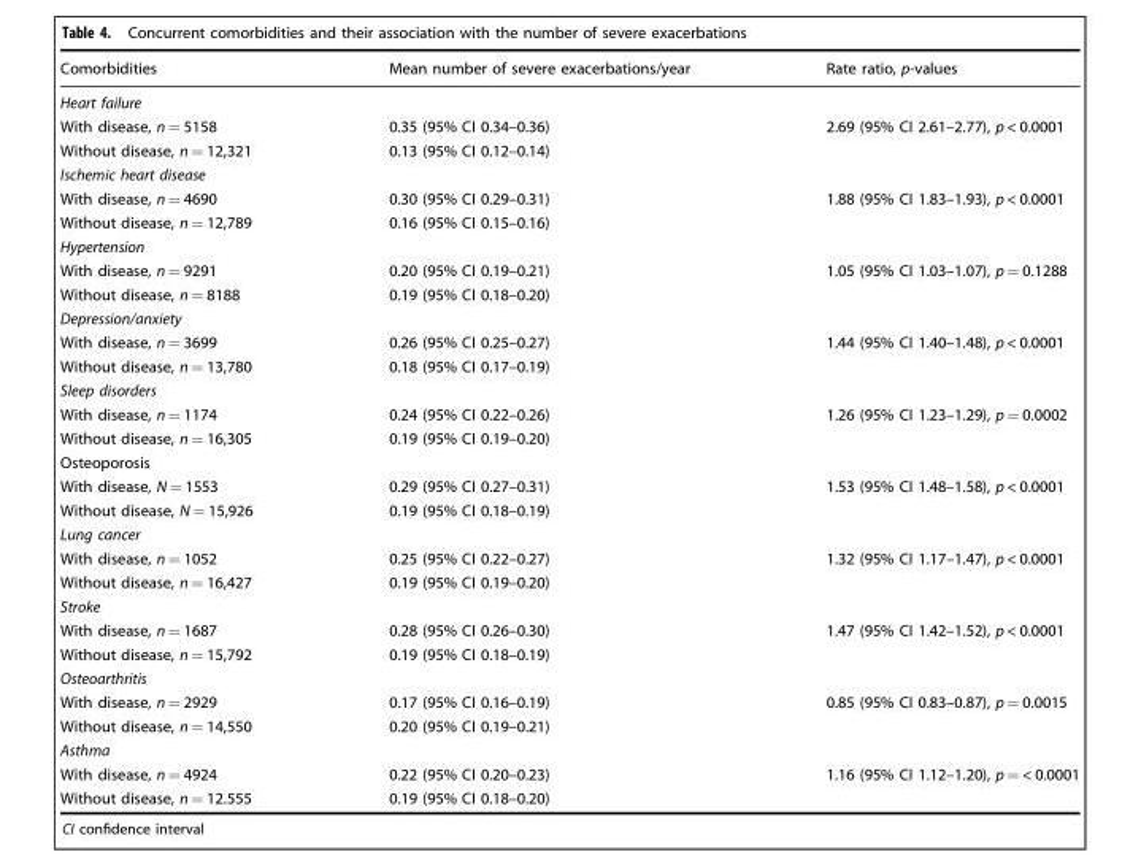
<table><thead><tr><td>Comorbidities</td><td>Mean number of severe exacerbations/year</td><td>Rate ratio, p-values</td></tr></thead><tbody><tr><td colspan="3">Heart failure</td></tr><tr><td>With disease, n = 5158</td><td>0.35 (95% CI 0.34–0.36)</td><td rowspan="2">2.69 (95% CI 2.61–2.77), p &lt; 0.0001</td></tr><tr><td>Without disease, n = 12,321</td><td>0.13 (95% CI 0.12–0.14)</td></tr><tr><td colspan="3">Ischemic heart disease</td></tr><tr><td>With disease, n = 4690</td><td>0.30 (95% CI 0.29–0.31)</td><td rowspan="2">1.88 (95% CI 1.83–1.93), p &lt; 0.0001</td></tr><tr><td>Without disease, n = 12,789</td><td>0.16 (95% CI 0.15–0.16)</td></tr><tr><td colspan="3">Hypertension</td></tr><tr><td>With disease, n = 9291</td><td>0.20 (95% CI 0.19–0.21)</td><td rowspan="2">1.05 (95% CI 1.03–1.07), p = 0.1288</td></tr><tr><td>Without disease, n = 8188</td><td>0.19 (95% CI 0.18–0.20)</td></tr><tr><td colspan="3">Depression/anxiety</td></tr><tr><td>With disease, n = 3699</td><td>0.26 (95% CI 0.25–0.27)</td><td rowspan="2">1.44 (95% CI 1.40–1.48), p &lt; 0.0001</td></tr><tr><td>Without disease, n = 13,780</td><td>0.18 (95% CI 0.17–0.19)</td></tr><tr><td colspan="3">Sleep disorders</td></tr><tr><td>With disease, n = 1174</td><td>0.24 (95% CI 0.22–0.26)</td><td rowspan="2">1.26 (95% CI 1.23–1.29), p = 0.0002</td></tr><tr><td>Without disease, n = 16,305</td><td>0.19 (95% CI 0.19–0.20)</td></tr><tr><td colspan="3">Osteoporosis</td></tr><tr><td>With disease, N = 1553</td><td>0.29 (95% CI 0.27–0.31)</td><td rowspan="2">1.53 (95% CI 1.48–1.58), p &lt; 0.0001</td></tr><tr><td>Without disease, N = 15,926</td><td>0.19 (95% CI 0.18–0.19)</td></tr><tr><td colspan="3">Lung cancer</td></tr><tr><td>With disease, n = 1052</td><td>0.25 (95% CI 0.22–0.27)</td><td rowspan="2">1.32 (95% CI 1.17–1.47), p &lt; 0.0001</td></tr><tr><td>Without disease, n = 16,427</td><td>0.19 (95% CI 0.19–0.20)</td></tr><tr><td colspan="3">Stroke</td></tr><tr><td>With disease, n = 1687</td><td>0.28 (95% CI 0.26–0.30)</td><td rowspan="2">1.47 (95% CI 1.42–1.52), p &lt; 0.0001</td></tr><tr><td>Without disease, n = 15,792</td><td>0.19 (95% CI 0.18–0.19)</td></tr><tr><td colspan="3">Osteoarthritis</td></tr><tr><td>With disease, n = 2929</td><td>0.17 (95% CI 0.16–0.19)</td><td rowspan="2">0.85 (95% CI 0.83–0.87), p = 0.0015</td></tr><tr><td>Without disease, n = 14,550</td><td>0.20 (95% CI 0.19–0.21)</td></tr><tr><td colspan="3">Asthma</td></tr><tr><td>With disease, n = 4924</td><td>0.22 (95% CI 0.20–0.23)</td><td rowspan="2">1.16 (95% CI 1.12–1.20), p = &lt; 0.0001</td></tr><tr><td>Without disease, n = 12.555</td><td>0.19 (95% CI 0.18–0.20)</td></tr></tbody></table>